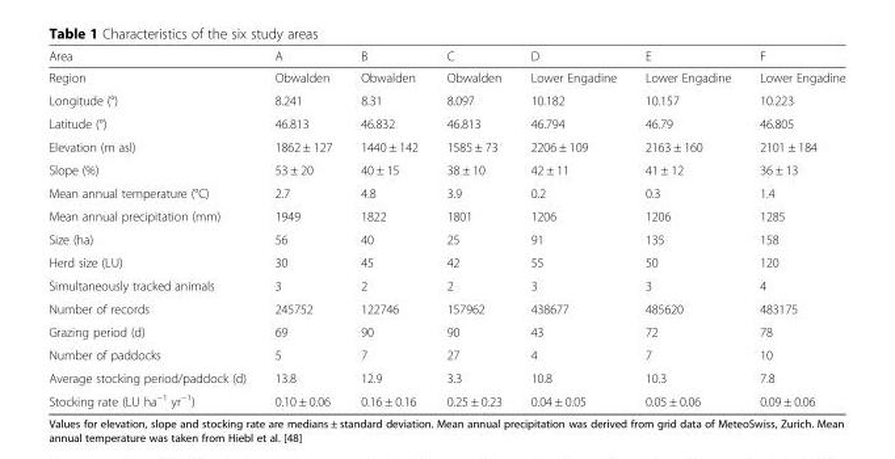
<table><thead><tr><td>Area</td><td>A</td><td>B</td><td>C</td><td>D</td><td>E</td><td>F</td></tr></thead><tbody><tr><td>Region</td><td>Obwalden</td><td>Obwalden</td><td>Obwalden</td><td>Lower Engadine</td><td>Lower Engadine</td><td>Lower Engadine</td></tr><tr><td>Longitude (°)</td><td>8.241</td><td>8.31</td><td>8.097</td><td>10.182</td><td>10.157</td><td>10.223</td></tr><tr><td>Latitude (°)</td><td>46.813</td><td>46.832</td><td>46.813</td><td>46.794</td><td>46.79</td><td>46.805</td></tr><tr><td>Elevation (m asl)</td><td>1862 ± 127</td><td>1440 ± 142</td><td>1585 ± 73</td><td>2206 ± 109</td><td>2163 ± 160</td><td>2101 ± 184</td></tr><tr><td>Slope (%)</td><td>53 ± 20</td><td>40 ± 15</td><td>38 ± 10</td><td>42 ± 11</td><td>41 ± 12</td><td>36 ± 13</td></tr><tr><td>Mean annual temperature (°C)</td><td>2.7</td><td>4.8</td><td>3.9</td><td>0.2</td><td>0.3</td><td>1.4</td></tr><tr><td>Mean annual precipitation (mm)</td><td>1949</td><td>1822</td><td>1801</td><td>1206</td><td>1206</td><td>1285</td></tr><tr><td>Size (ha)</td><td>56</td><td>40</td><td>25</td><td>91</td><td>135</td><td>158</td></tr><tr><td>Herd size (LU)</td><td>30</td><td>45</td><td>42</td><td>55</td><td>50</td><td>120</td></tr><tr><td>Simultaneously tracked animals</td><td>3</td><td>2</td><td>2</td><td>3</td><td>3</td><td>4</td></tr><tr><td>Number of records</td><td>245752</td><td>122746</td><td>157962</td><td>438677</td><td>485620</td><td>483175</td></tr><tr><td>Grazing period (d)</td><td>69</td><td>90</td><td>90</td><td>43</td><td>72</td><td>78</td></tr><tr><td>Number of paddocks</td><td>5</td><td>7</td><td>27</td><td>4</td><td>7</td><td>10</td></tr><tr><td>Average stocking period/paddock (d)</td><td>13.8</td><td>12.9</td><td>3.3</td><td>10.8</td><td>10.3</td><td>7.8</td></tr><tr><td>Stocking rate (LU ha<sup>−1</sup> yr<sup>−1</sup>)</td><td>0.10 ± 0.06</td><td>0.16 ± 0.16</td><td>0.25 ± 0.23</td><td>0.04 ± 0.05</td><td>0.05 ± 0.06</td><td>0.09 ± 0.06</td></tr></tbody></table>